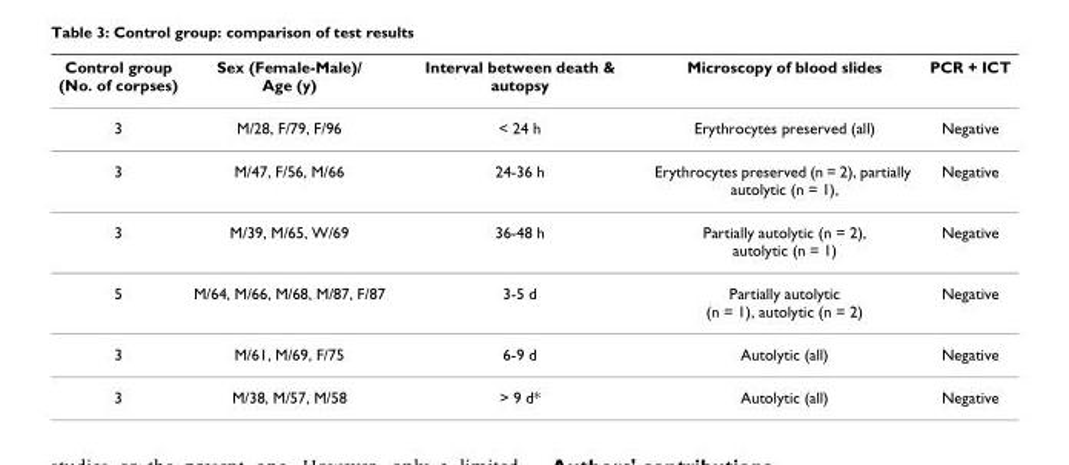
<table><thead><tr><td>Control group (No. of corpses)</td><td>Sex (Female-Male)/ Age (y)</td><td>Interval between death &amp; autopsy</td><td>Microscopy of blood slides</td><td>PCR + ICT</td></tr></thead><tbody><tr><td>3</td><td>M/28, F/79, F/96</td><td>&lt; 24 h</td><td>Erythrocytes preserved (all)</td><td>Negative</td></tr><tr><td>3</td><td>M/47, F/56, M/66</td><td>24-36 h</td><td>Erythrocytes preserved (n = 2), partially autolytic (n = 1),</td><td>Negative</td></tr><tr><td>3</td><td>M/39, M/65, W/69</td><td>36-48 h</td><td>Partially autolytic (n = 2), autolytic (n = 1)</td><td>Negative</td></tr><tr><td>5</td><td>M/64, M/66, M/68, M/87, F/87</td><td>3-5 d</td><td>Partially autolytic (n = 1), autolytic (n = 2)</td><td>Negative</td></tr><tr><td>3</td><td>M/61, M/69, F/75</td><td>6-9 d</td><td>Autolytic (all)</td><td>Negative</td></tr><tr><td>3</td><td>M/38, M/57, M/58</td><td>&gt; 9 d*</td><td>Autolytic (all)</td><td>Negative</td></tr></tbody></table>